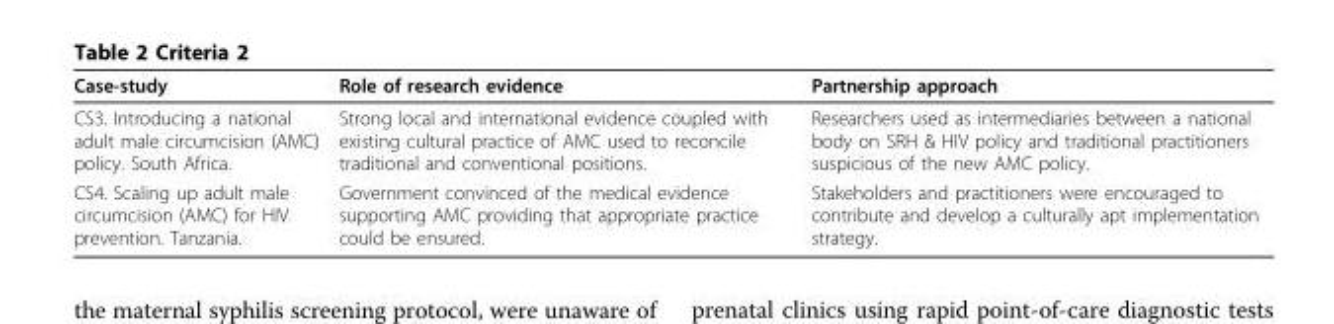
<table><thead><tr><td>Case-study</td><td>Role of research evidence</td><td>Partnership approach</td></tr></thead><tbody><tr><td>CS3. Introducing a national adult male circumcision (AMC) policy. South Africa.</td><td>Strong local and international evidence coupled with existing cultural practice of AMC used to reconcile traditional and conventional positions.</td><td>Researchers used as intermediaries between a national body on SRH &amp; HIV policy and traditional practitioners suspicious of the new AMC policy.</td></tr><tr><td>CS4. Scaling up adult male circumcision (AMC) for HIV prevention. Tanzania.</td><td>Government convinced of the medical evidence supporting AMC providing that appropriate practice could be ensured.</td><td>Stakeholders and practitioners were encouraged to contribute and develop a culturally apt implementation strategy.</td></tr></tbody></table>